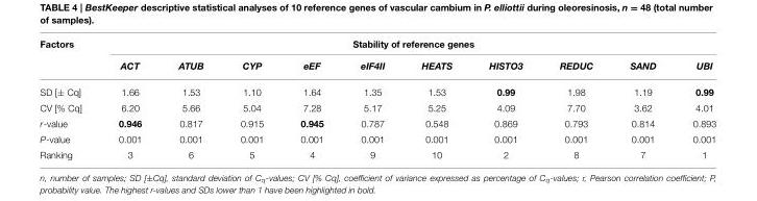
<table><thead><tr><td rowspan="2">Factors</td><td colspan="10">Stability of reference genes</td></tr><tr><td>ACT</td><td>ATUB</td><td>CYP</td><td>eEF</td><td>eIF4II</td><td>HEATS</td><td>HISTO3</td><td>REDUC</td><td>SAND</td><td>UBI</td></tr></thead><tbody><tr><td>SD [± Cq]</td><td>1.66</td><td>1.53</td><td>1.10</td><td>1.64</td><td>1.35</td><td>1.53</td><td>0.99</td><td>1.98</td><td>1.19</td><td>0.99</td></tr><tr><td>CV [% Cq]</td><td>6.20</td><td>5.66</td><td>5.04</td><td>7.28</td><td>5.17</td><td>5.25</td><td>4.09</td><td>7.70</td><td>3.62</td><td>4.01</td></tr><tr><td>r-value</td><td>0.946</td><td>0.817</td><td>0.915</td><td>0.945</td><td>0.787</td><td>0.548</td><td>0.869</td><td>0.793</td><td>0.814</td><td>0.893</td></tr><tr><td>P-value</td><td>0.001</td><td>0.001</td><td>0.001</td><td>0.001</td><td>0.001</td><td>0.001</td><td>0.001</td><td>0.001</td><td>0.001</td><td>0.001</td></tr><tr><td>Ranking</td><td>3</td><td>6</td><td>5</td><td>4</td><td>9</td><td>10</td><td>2</td><td>8</td><td>7</td><td>1</td></tr></tbody></table>